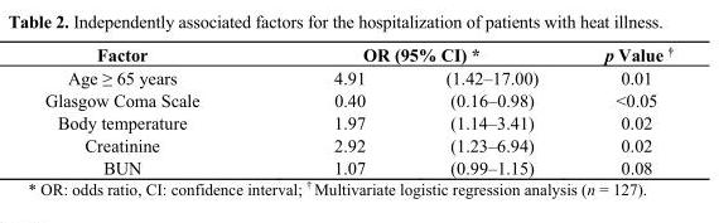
<table><thead><tr><td rowspan="2">Factor Age ≥ 65 years</td><td colspan="2">OR (95% CI) *</td><td rowspan="2">p Value <sup>†</sup> 0.01</td></tr><tr><td>4.91</td><td>(1.42–17.00)</td></tr></thead><tbody><tr><td>Glasgow Coma Scale</td><td>0.40</td><td>(0.16–0.98)</td><td>&lt;0.05</td></tr><tr><td>Body temperature</td><td>1.97</td><td>(1.14–3.41)</td><td>0.02</td></tr><tr><td>Creatinine</td><td>2.92</td><td>(1.23–6.94)</td><td>0.02</td></tr><tr><td>BUN</td><td>1.07</td><td>(0.99–1.15)</td><td>0.08</td></tr></tbody></table>